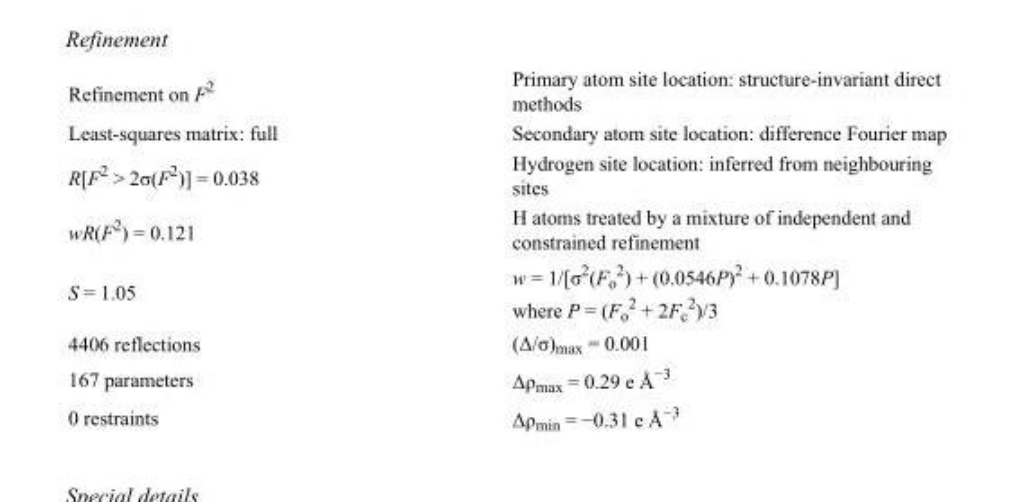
<table><tbody><tr><td>Refinement on F<sup>2</sup></td><td>Primary atom site location: structure-invariant direct methods</td></tr><tr><td>Least-squares matrix: full</td><td>Secondary atom site location: difference Fourier map</td></tr><tr><td>R[F<sup>2</sup> &gt; 2σ(F<sup>2</sup>)] = 0.038</td><td>Hydrogen site location: inferred from neighbouring sites</td></tr><tr><td>wR(F<sup>2</sup>) = 0.121</td><td>H atoms treated by a mixture of independent and constrained refinement</td></tr><tr><td>S = 1.05</td><td>w = 1/[σ<sup>2</sup>(F<sub>o</sub> <sup>2</sup>) + (0.0546P)<sup>2</sup> + 0.1078P] where P = (F<sub>o</sub> <sup>2</sup> + 2F<sub>c</sub> <sup>2</sup>)/3</td></tr><tr><td>4406 reflections</td><td>(Δ/σ)<sub>max</sub> = 0.001</td></tr><tr><td>167 parameters</td><td>Δρ<sub>max</sub> = 0.29 e Å<sup>−3</sup></td></tr><tr><td>0 restraints</td><td>Δρ<sub>min</sub> = −0.31 e Å<sup>−3</sup></td></tr></tbody></table>